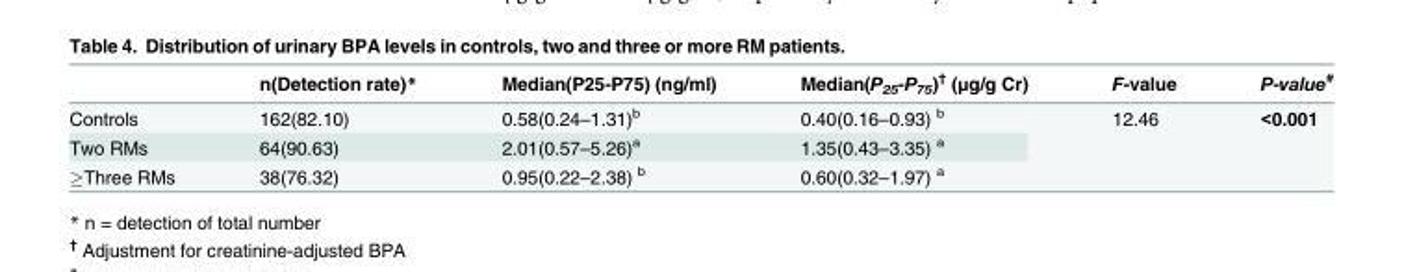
<table><thead><tr><td></td><td>n(Detection rate)*</td><td>Median(P25-P75) (ng/ml)</td><td>Median(P<sub>25</sub>-P<sub>75</sub>)<sup>†</sup> (μg/g Cr)</td><td>F-value</td><td>P-value<sup>#</sup></td></tr></thead><tbody><tr><td>Controls</td><td>162(82.10)</td><td>0.58(0.24–1.31)<sup>b</sup></td><td>0.40(0.16–0.93) <sup>b</sup></td><td rowspan="3">12.46</td><td rowspan="3">&lt;0.001</td></tr><tr><td>Two RMs</td><td>64(90.63)</td><td>2.01(0.57–5.26)<sup>a</sup></td><td>1.35(0.43–3.35) <sup>a</sup></td></tr><tr><td>≥Three RMs</td><td>38(76.32)</td><td>0.95(0.22–2.38) <sup>b</sup></td><td>0.60(0.32–1.97) <sup>a</sup></td></tr></tbody></table>